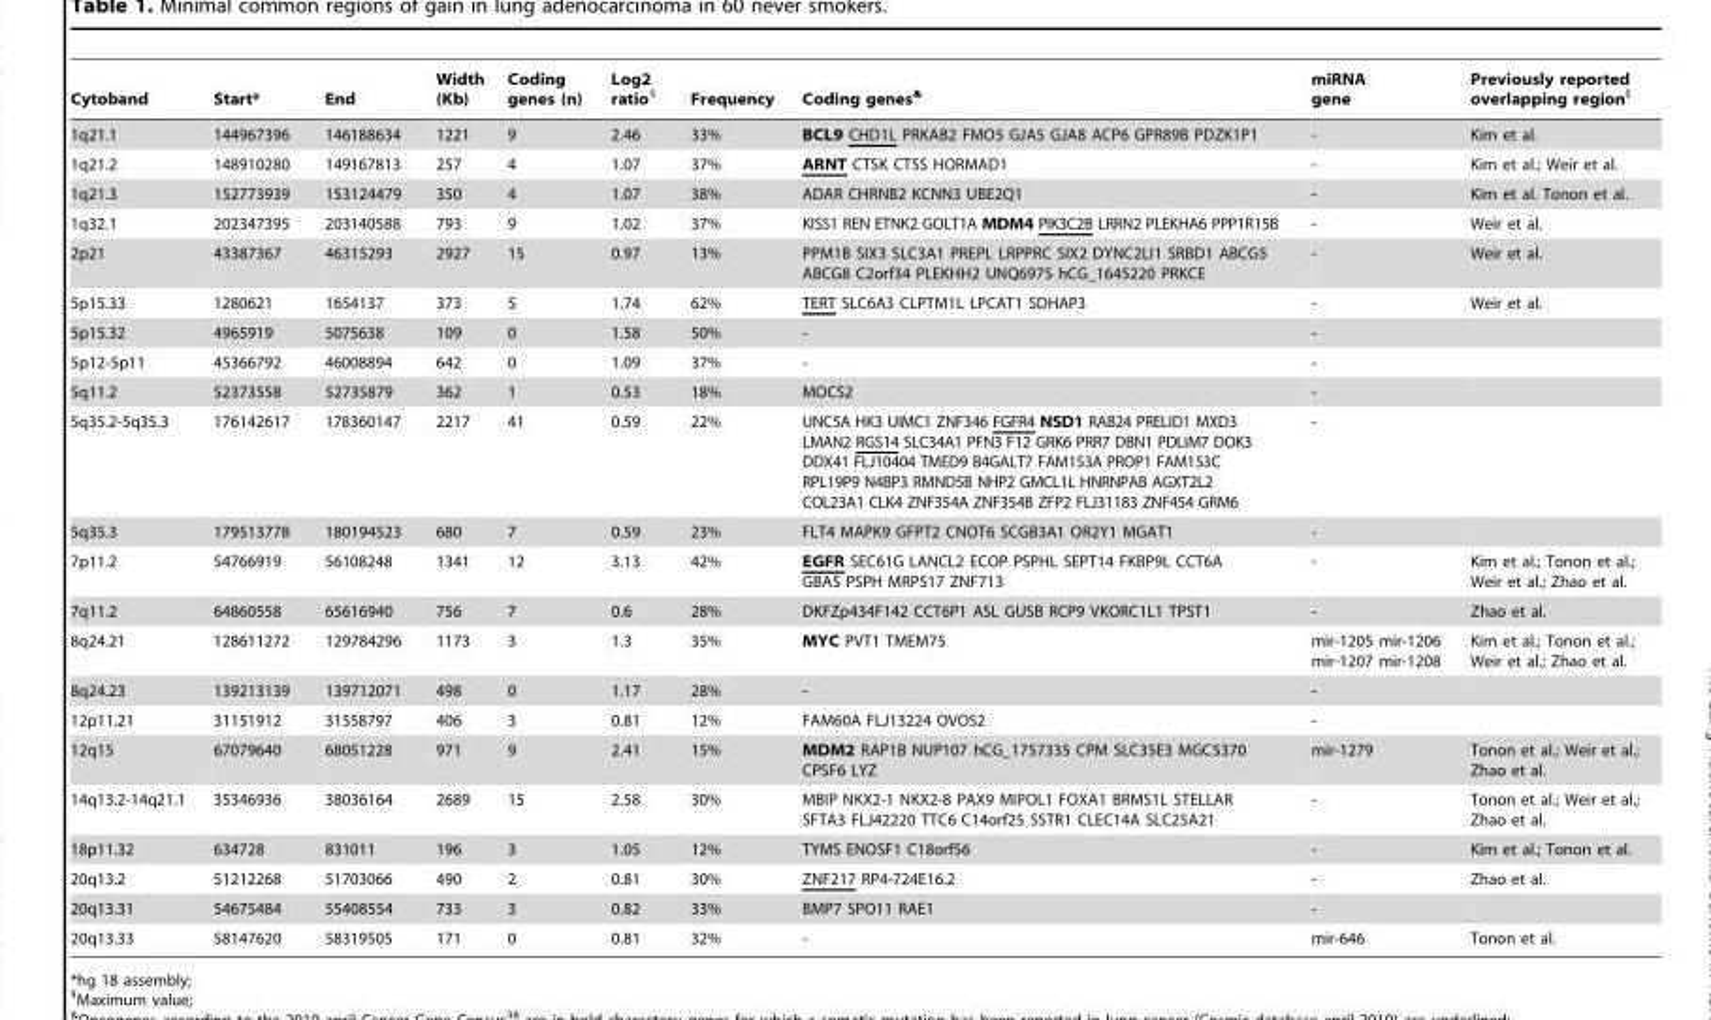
<table><thead><tr><td>Cytoband</td><td>Start*</td><td>End</td><td>Width (Kb)</td><td>Coding genes (n)</td><td>Log2 ratio§</td><td>Frequency</td><td>Coding genes&amp;</td><td>miRNA gene</td><td>Previously reported overlapping region$</td></tr></thead><tbody><tr><td>1q21.1</td><td>144967396</td><td>146188634</td><td>1221</td><td>9</td><td>2.46</td><td>33%</td><td>BCL9 CHD1L PRKAB2 FMO5 GJA5 GJA8 ACP6 GPR89B PDZK1P1</td><td>-</td><td>Kim et al.</td></tr><tr><td>1q21.2</td><td>148910280</td><td>149167813</td><td>257</td><td>4</td><td>1.07</td><td>37%</td><td>ARNT CTSK CTSS HORMAD1</td><td>-</td><td>Kim et al.; Weir et al.</td></tr><tr><td>1q21.3</td><td>152773939</td><td>153124479</td><td>350</td><td>4</td><td>1.07</td><td>38%</td><td>ADAR CHRNB2 KCNN3 UBE2Q1</td><td>-</td><td>Kim et al. Tonon et al.</td></tr><tr><td>1q32.1</td><td>202347395</td><td>203140588</td><td>793</td><td>9</td><td>1.02</td><td>37%</td><td>KISS1 REN ETNK2 GOLT1A MDM4 PIK3C2B LRRN2 PLEKHA6 PPP1R15B</td><td>-</td><td>Weir et al.</td></tr><tr><td>2p21</td><td>43387367</td><td>46315293</td><td>2927</td><td>15</td><td>0.97</td><td>13%</td><td>PPM1B SIX3 SLC3A1 PREPL LRPPRC SIX2 DYNC2LI1 SRBD1 ABCG5 ABCG8 C2orf34 PLEKHH2 UNQ6975 hCG_1645220 PRKCE</td><td>-</td><td>Weir et al.</td></tr><tr><td>5p15.33</td><td>1280621</td><td>1654137</td><td>373</td><td>5</td><td>1.74</td><td>62%</td><td>TERT SLC6A3 CLPTM1L LPCAT1 SDHAP3</td><td>-</td><td>Weir et al.</td></tr><tr><td>5p15.32</td><td>4965919</td><td>5075638</td><td>109</td><td>0</td><td>1.58</td><td>50%</td><td>-</td><td>-</td><td></td></tr><tr><td>5p12-5p11</td><td>45366792</td><td>46008894</td><td>642</td><td>0</td><td>1.09</td><td>37%</td><td>-</td><td>-</td><td></td></tr><tr><td>5q11.2</td><td>52373558</td><td>52735879</td><td>362</td><td>1</td><td>0.53</td><td>18%</td><td>MOCS2</td><td>-</td><td></td></tr><tr><td>5q35.2-5q35.3</td><td>176142617</td><td>178360147</td><td>2217</td><td>41</td><td>0.59</td><td>22%</td><td>UNC5A HK3 UIMC1 ZNF346 FGFR4 NSD1 RAB24 PRELID1 MXD3 LMAN2 RGS14 SLC34A1 PFN3 F12 GRK6 PRR7 DBN1 PDLIM7 DOK3 DDX41 FLJ10404 TMED9 B4GALT7 FAM153A PROP1 FAM153C RPL19P9 N4BP3 RMND5B NHP2 GMCL1L HNRNPAB AGXT2L2 COL23A1 CLK4 ZNF354A ZNF354B ZFP2 FLJ31183 ZNF454 GRM6</td><td>-</td><td></td></tr><tr><td>5q35.3</td><td>179513778</td><td>180194523</td><td>680</td><td>7</td><td>0.59</td><td>23%</td><td>FLT4 MAPK9 GFPT2 CNOT6 SCGB3A1 OR2Y1 MGAT1</td><td>-</td><td></td></tr><tr><td>7p11.2</td><td>54766919</td><td>56108248</td><td>1341</td><td>12</td><td>3.13</td><td>42%</td><td>EGFR SEC61G LANCL2 ECOP PSPHL SEPT14 FKBP9L CCT6A GBAS PSPH MRPS17 ZNF713</td><td>-</td><td>Kim et al.; Tonon et al.; Weir et al.; Zhao et al.</td></tr><tr><td>7q11.2</td><td>64860558</td><td>65616940</td><td>756</td><td>7</td><td>0.6</td><td>28%</td><td>DKFZp434F142 CCT6P1 ASL GUSB RCP9 VKORC1L1 TPST1</td><td>-</td><td>Zhao et al.</td></tr><tr><td>8q24.21</td><td>128611272</td><td>129784296</td><td>1173</td><td>3</td><td>1.3</td><td>35%</td><td>MYC PVT1 TMEM75</td><td>mir-1205 mir-1206 mir-1207 mir-1208</td><td>Kim et al.; Tonon et al.; Weir et al.; Zhao et al.</td></tr><tr><td>8q24.23</td><td>139213139</td><td>139712071</td><td>498</td><td>0</td><td>1.17</td><td>28%</td><td>-</td><td>-</td><td></td></tr><tr><td>12p11.21</td><td>31151912</td><td>31558797</td><td>406</td><td>3</td><td>0.81</td><td>12%</td><td>FAM60A FLJ13224 OVOS2</td><td>-</td><td></td></tr><tr><td>12q15</td><td>67079640</td><td>68051228</td><td>971</td><td>9</td><td>2.41</td><td>15%</td><td>MDM2 RAP1B NUP107 hCG_1757335 CPM SLC35E3 MGC5370 CPSF6 LYZ</td><td>mir-1279</td><td>Tonon et al.; Weir et al.; Zhao et al.</td></tr><tr><td>14q13.2-14q21.1</td><td>35346936</td><td>38036164</td><td>2689</td><td>15</td><td>2.58</td><td>30%</td><td>MBIP NKX2-1 NKX2-8 PAX9 MIPOL1 FOXA1 BRMS1L STELLAR SFTA3 FLJ42220 TTC6 C14orf25 SSTR1 CLEC14A SLC25A21</td><td>-</td><td>Tonon et al.; Weir et al.; Zhao et al.</td></tr><tr><td>18p11.32</td><td>634728</td><td>831011</td><td>196</td><td>3</td><td>1.05</td><td>12%</td><td>TYMS ENOSF1 C18orf56</td><td>-</td><td>Kim et al.; Tonon et al.</td></tr><tr><td>20q13.2</td><td>51212268</td><td>51703066</td><td>490</td><td>2</td><td>0.81</td><td>30%</td><td>ZNF217 RP4-724E16.2</td><td>-</td><td>Zhao et al.</td></tr><tr><td>20q13.31</td><td>54675484</td><td>55408554</td><td>733</td><td>3</td><td>0.82</td><td>33%</td><td>BMP7 SPO11 RAE1</td><td>-</td><td></td></tr><tr><td>20q13.33</td><td>58147620</td><td>58319505</td><td>171</td><td>0</td><td>0.81</td><td>32%</td><td>-</td><td>mir-646</td><td>Tonon et al.</td></tr></tbody></table>